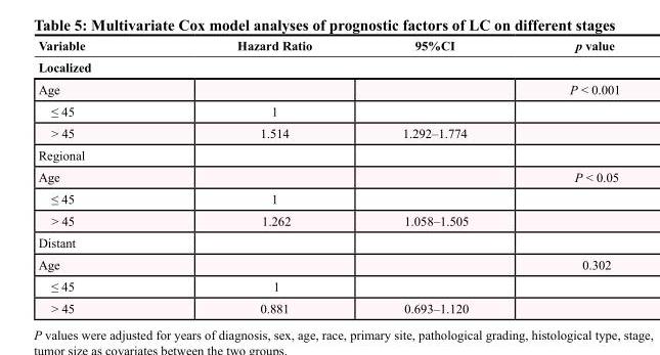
<table><thead><tr><td>Variable</td><td>Hazard Ratio</td><td>95%CI</td><td>p value</td></tr><tr><td colspan="4">Localized</td></tr></thead><tbody><tr><td>Age</td><td></td><td></td><td>P &lt; 0.001</td></tr><tr><td>≤ 45</td><td>1</td><td></td><td></td></tr><tr><td>&gt; 45</td><td>1.514</td><td>1.292–1.774</td><td></td></tr><tr><td colspan="4">Regional</td></tr><tr><td>Age</td><td></td><td></td><td>P &lt; 0.05</td></tr><tr><td>≤ 45</td><td>1</td><td></td><td></td></tr><tr><td>&gt; 45</td><td>1.262</td><td>1.058–1.505</td><td></td></tr><tr><td colspan="4">Distant</td></tr><tr><td>Age</td><td></td><td></td><td>0.302</td></tr><tr><td>≤ 45</td><td>1</td><td></td><td></td></tr><tr><td>&gt; 45</td><td>0.881</td><td>0.693–1.120</td><td></td></tr></tbody></table>